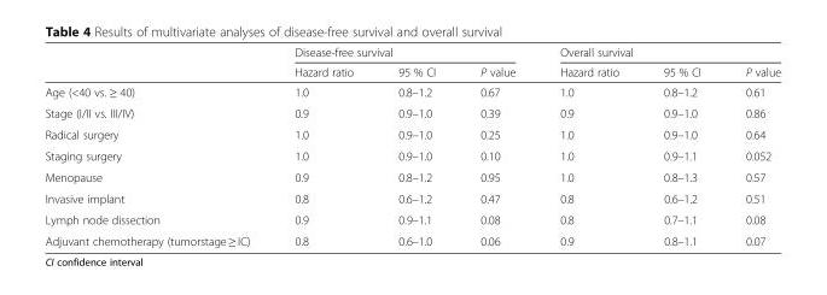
<table><thead><tr><td rowspan="2"></td><td colspan="3">Disease-free survival</td><td colspan="3">Overall survival</td></tr><tr><td>Hazard ratio</td><td>95 % CI</td><td>P value</td><td>Hazard ratio</td><td>95 % CI</td><td>P value</td></tr></thead><tbody><tr><td>Age (&lt;40 vs. ≥ 40)</td><td>1.0</td><td>0.8–1.2</td><td>0.67</td><td>1.0</td><td>0.8–1.2</td><td>0.61</td></tr><tr><td>Stage (I/II vs. III/IV)</td><td>0.9</td><td>0.9–1.0</td><td>0.39</td><td>0.9</td><td>0.9–1.0</td><td>0.86</td></tr><tr><td>Radical surgery</td><td>1.0</td><td>0.9–1.0</td><td>0.25</td><td>1.0</td><td>0.9–1.0</td><td>0.64</td></tr><tr><td>Staging surgery</td><td>1.0</td><td>0.9–1.0</td><td>0.10</td><td>1.0</td><td>0.9–1.1</td><td>0.052</td></tr><tr><td>Menopause</td><td>0.9</td><td>0.8–1.2</td><td>0.95</td><td>1.0</td><td>0.8–1.3</td><td>0.57</td></tr><tr><td>Invasive implant</td><td>0.8</td><td>0.6–1.2</td><td>0.47</td><td>0.8</td><td>0.6–1.2</td><td>0.51</td></tr><tr><td>Lymph node dissection</td><td>0.9</td><td>0.9–1.1</td><td>0.08</td><td>0.8</td><td>0.7–1.1</td><td>0.08</td></tr><tr><td>Adjuvant chemotherapy (tumorstage ≥ IC)</td><td>0.8</td><td>0.6–1.0</td><td>0.06</td><td>0.9</td><td>0.8–1.1</td><td>0.07</td></tr></tbody></table>